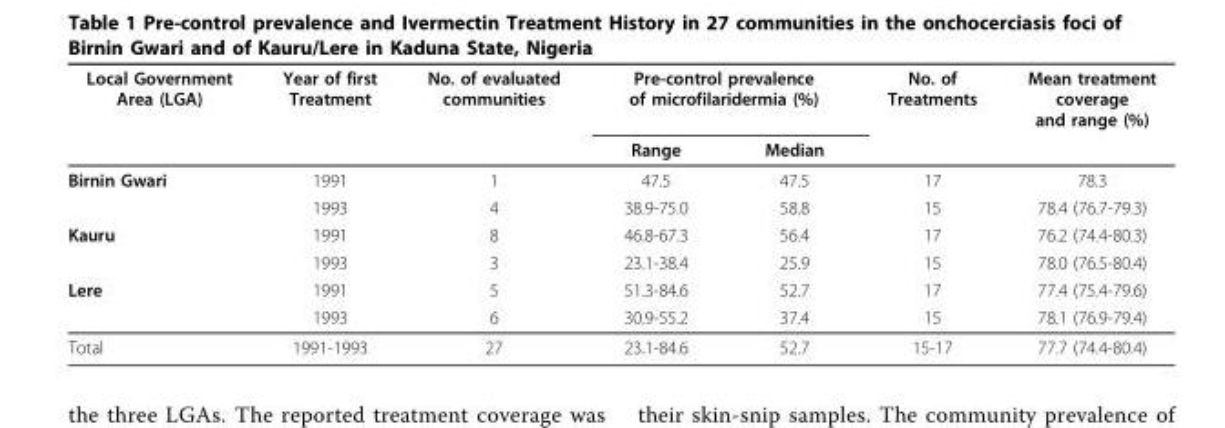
<table><thead><tr><td rowspan="2">Local Government Area (LGA)</td><td rowspan="2">Year of first Treatment</td><td rowspan="2">No. of evaluated communities</td><td colspan="2">Pre-control prevalence of microfilaridermia (%)</td><td rowspan="2">No. of Treatments</td><td rowspan="2">Mean treatment coverage and range (%)</td></tr><tr><td>Range</td><td>Median</td></tr></thead><tbody><tr><td rowspan="2">Birnin Gwari</td><td>1991</td><td>1</td><td>47.5</td><td>47.5</td><td>17</td><td>78.3</td></tr><tr><td>1993</td><td>4</td><td>38.9-75.0</td><td>58.8</td><td>15</td><td>78.4 (76.7-79.3)</td></tr><tr><td rowspan="2">Kauru</td><td>1991</td><td>8</td><td>46.8-67.3</td><td>56.4</td><td>17</td><td>76.2 (74.4-80.3)</td></tr><tr><td>1993</td><td>3</td><td>23.1-38.4</td><td>25.9</td><td>15</td><td>78.0 (76.5-80.4)</td></tr><tr><td rowspan="2">Lere</td><td>1991</td><td>5</td><td>51.3-84.6</td><td>52.7</td><td>17</td><td>77.4 (75.4-79.6)</td></tr><tr><td>1993</td><td>6</td><td>30.9-55.2</td><td>37.4</td><td>15</td><td>78.1 (76.9-79.4)</td></tr><tr><td>Total</td><td>1991-1993</td><td>27</td><td>23.1-84.6</td><td>52.7</td><td>15-17</td><td>77.7 (74.4-80.4)</td></tr></tbody></table>